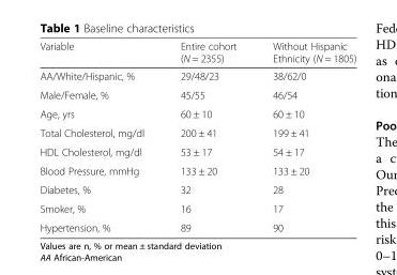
<table><thead><tr><td>Variable</td><td>Entire cohort (N = 2355)</td><td>Without Hispanic Ethnicity (N = 1805)</td></tr></thead><tbody><tr><td>AA/White/Hispanic, %</td><td>29/48/23</td><td>38/62/0</td></tr><tr><td>Male/Female, %</td><td>45/55</td><td>46/54</td></tr><tr><td>Age, yrs</td><td>60 ± 10</td><td>60 ± 10</td></tr><tr><td>Total Cholesterol, mg/dl</td><td>200 ± 41</td><td>199 ± 41</td></tr><tr><td>HDL Cholesterol, mg/dl</td><td>53 ± 17</td><td>54 ± 17</td></tr><tr><td>Blood Pressure, mmHg</td><td>133 ± 20</td><td>133 ± 20</td></tr><tr><td>Diabetes, %</td><td>32</td><td>28</td></tr><tr><td>Smoker, %</td><td>16</td><td>17</td></tr><tr><td>Hypertension, %</td><td>89</td><td>90</td></tr></tbody></table>